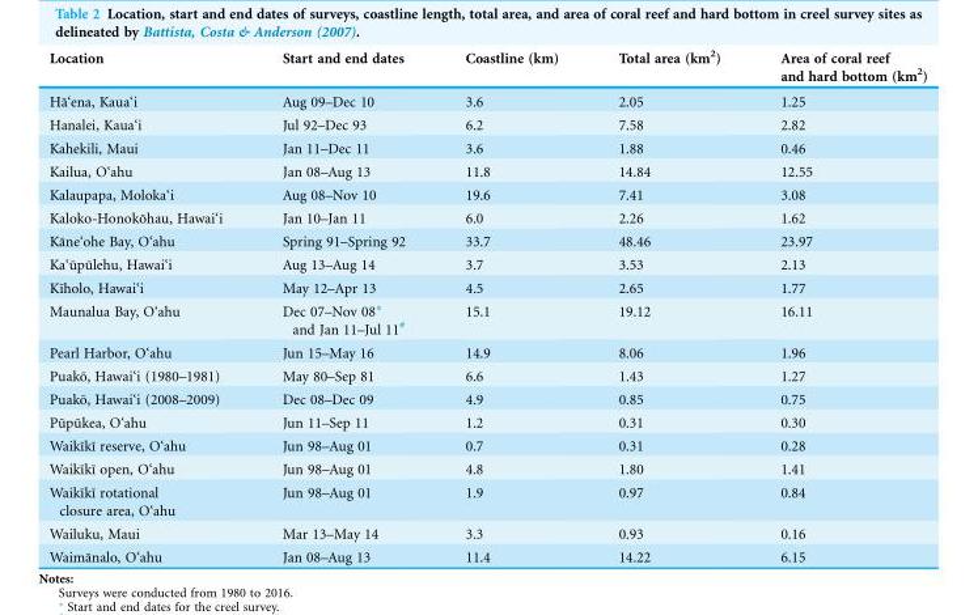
<table><thead><tr><td>Location</td><td>Start and end dates</td><td>Coastline (km)</td><td>Total area (km<sup>2</sup>)</td><td>Area of coral reef and hard bottom (km<sup>2</sup>)</td></tr></thead><tbody><tr><td>Ha¯‘ena, Kaua‘i</td><td>Aug 09–Dec 10</td><td>3.6</td><td>2.05</td><td>1.25</td></tr><tr><td>Hanalei, Kaua‘i</td><td>Jul 92–Dec 93</td><td>6.2</td><td>7.58</td><td>2.82</td></tr><tr><td>Kahekili, Maui</td><td>Jan 11–Dec 11</td><td>3.6</td><td>1.88</td><td>0.46</td></tr><tr><td>Kailua, O‘ahu</td><td>Jan 08–Aug 13</td><td>11.8</td><td>14.84</td><td>12.55</td></tr><tr><td>Kalaupapa, Moloka‘i</td><td>Aug 08–Nov 10</td><td>19.6</td><td>7.41</td><td>3.08</td></tr><tr><td>Kaloko-Honoko¯hau, Hawai‘i</td><td>Jan 10–Jan 11</td><td>6.0</td><td>2.26</td><td>1.62</td></tr><tr><td>Ka¯ne‘ohe Bay, O‘ahu</td><td>Spring 91–Spring 92</td><td>33.7</td><td>48.46</td><td>23.97</td></tr><tr><td>Ka‘u¯pu¯lehu, Hawai‘i</td><td>Aug 13–Aug 14</td><td>3.7</td><td>3.53</td><td>2.13</td></tr><tr><td>Kı¯holo, Hawai‘i</td><td>May 12–Apr 13</td><td>4.5</td><td>2.65</td><td>1.77</td></tr><tr><td>Maunalua Bay, O‘ahu</td><td>Dec 07–Nov 08* and Jan 11–Jul 11<sup>#</sup></td><td>15.1</td><td>19.12</td><td>16.11</td></tr><tr><td>Pearl Harbor, O‘ahu</td><td>Jun 15–May 16</td><td>14.9</td><td>8.06</td><td>1.96</td></tr><tr><td>Puako¯, Hawai‘i (1980–1981)</td><td>May 80–Sep 81</td><td>6.6</td><td>1.43</td><td>1.27</td></tr><tr><td>Puako¯, Hawai‘i (2008–2009)</td><td>Dec 08–Dec 09</td><td>4.9</td><td>0.85</td><td>0.75</td></tr><tr><td>Pu¯pu¯kea, O‘ahu</td><td>Jun 11–Sep 11</td><td>1.2</td><td>0.31</td><td>0.30</td></tr><tr><td>Waikı¯kı¯ reserve, O‘ahu</td><td>Jun 98–Aug 01</td><td>0.7</td><td>0.31</td><td>0.28</td></tr><tr><td>Waikı¯kı¯ open, O‘ahu</td><td>Jun 98–Aug 01</td><td>4.8</td><td>1.80</td><td>1.41</td></tr><tr><td>Waikı¯kı¯ rotational closure area, O‘ahu</td><td>Jun 98–Aug 01</td><td>1.9</td><td>0.97</td><td>0.84</td></tr><tr><td>Wailuku, Maui</td><td>Mar 13–May 14</td><td>3.3</td><td>0.93</td><td>0.16</td></tr><tr><td>Waima¯nalo, O‘ahu</td><td>Jan 08–Aug 13</td><td>11.4</td><td>14.22</td><td>6.15</td></tr></tbody></table>